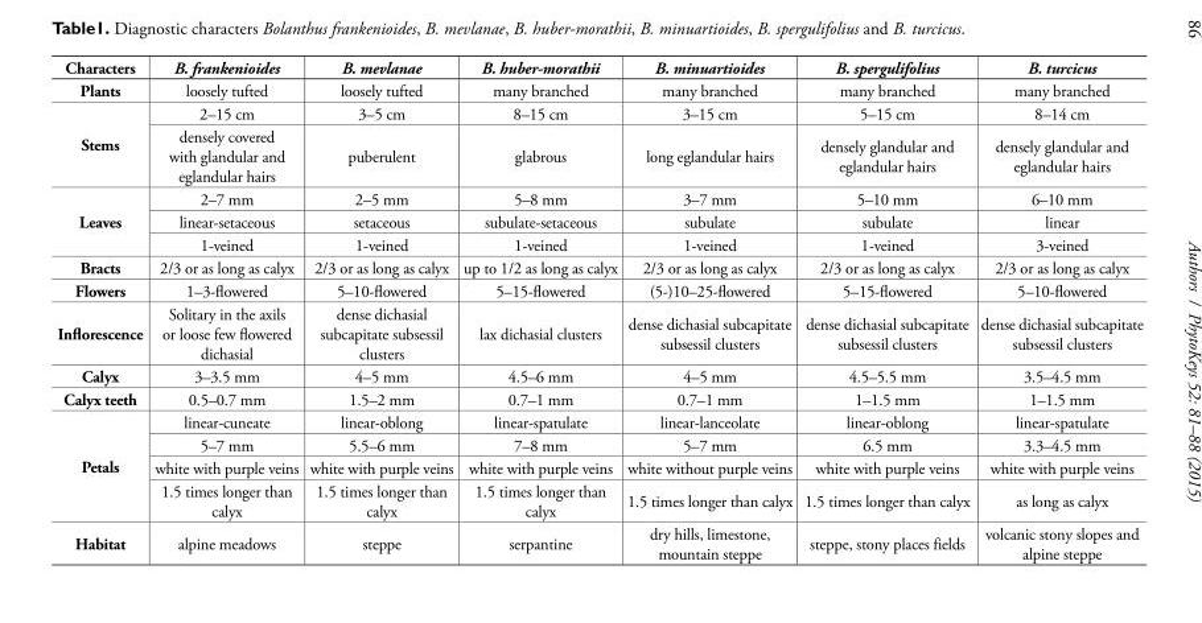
<table><tbody><tr><td>Characters</td><td>B. frankenioides</td><td>B. mevlanae</td><td>B. huber-morathii</td><td>B. minuartioides</td><td>B. spergulifolius</td><td>B. turcicus</td></tr><tr><td>Plants</td><td>loosely tufted</td><td>loosely tufted</td><td>many branched</td><td>many branched</td><td>many branched</td><td>many branched</td></tr><tr><td rowspan="2">Stems</td><td>2–15 cm</td><td>3–5 cm</td><td>8–15 cm</td><td>3–15 cm</td><td>5–15 cm</td><td>8–14 cm</td></tr><tr><td>densely covered with glandular and eglandular hairs</td><td>puberulent</td><td>glabrous</td><td>long eglandular hairs</td><td>densely glandular and eglandular hairs</td><td>densely glandular and eglandular hairs</td></tr><tr><td rowspan="3">Leaves</td><td>2–7 mm</td><td>2–5 mm</td><td>5–8 mm</td><td>3–7 mm</td><td>5–10 mm</td><td>6–10 mm</td></tr><tr><td>linear-setaceous</td><td>setaceous</td><td>subulate-setaceous</td><td>subulate</td><td>subulate</td><td>linear</td></tr><tr><td>1-veined</td><td>1-veined</td><td>1-veined</td><td>1-veined</td><td>1-veined</td><td>3-veined</td></tr><tr><td>Bracts</td><td>2/3 or as long as calyx</td><td>2/3 or as long as calyx</td><td>up to 1/2 as long as calyx</td><td>2/3 or as long as calyx</td><td>2/3 or as long as calyx</td><td>2/3 or as long as calyx</td></tr><tr><td>Flowers</td><td>1–3-fl owered</td><td>5–10-fl owered</td><td>5–15-fl owered</td><td>(5-)10–25-fl owered</td><td>5–15-fl owered</td><td>5–10-fl owered</td></tr><tr><td>Infl orescence</td><td>Solitary in the axils or loose few fl owered dichasial</td><td>dense dichasial subcapitate subsessil clusters</td><td>lax dichasial clusters</td><td>dense dichasial subcapitate subsessil clusters</td><td>dense dichasial subcapitate subsessil clusters</td><td>dense dichasial subcapitate subsessil clusters</td></tr><tr><td>Calyx</td><td>3–3.5 mm</td><td>4–5 mm</td><td>4.5–6 mm</td><td>4–5 mm</td><td>4.5–5.5 mm</td><td>3.5–4.5 mm</td></tr><tr><td>Calyx teeth</td><td>0.5–0.7 mm</td><td>1.5–2 mm</td><td>0.7–1 mm</td><td>0.7–1 mm</td><td>1–1.5 mm</td><td>1–1.5 mm</td></tr><tr><td rowspan="4">Petals</td><td>linear-cuneate</td><td>linear-oblong</td><td>linear-spatulate</td><td>linear-lanceolate</td><td>linear-oblong</td><td>linear-spatulate</td></tr><tr><td>5–7 mm</td><td>5.5–6 mm</td><td>7–8 mm</td><td>5–7 mm</td><td>6.5 mm</td><td>3.3–4.5 mm</td></tr><tr><td>white with purple veins</td><td>white with purple veins</td><td>white with purple veins</td><td>white without purple veins</td><td>white with purple veins</td><td>white with purple veins</td></tr><tr><td>1.5 times longer than calyx</td><td>1.5 times longer than calyx</td><td>1.5 times longer than calyx</td><td>1.5 times longer than calyx</td><td>1.5 times longer than calyx</td><td>as long as calyx</td></tr><tr><td>Habitat</td><td>alpine meadows</td><td>steppe</td><td>serpantine</td><td>dry hills, limestone, mountain steppe</td><td>steppe, stony places fields</td><td>volcanic stony slopes and alpine steppe</td></tr></tbody></table>